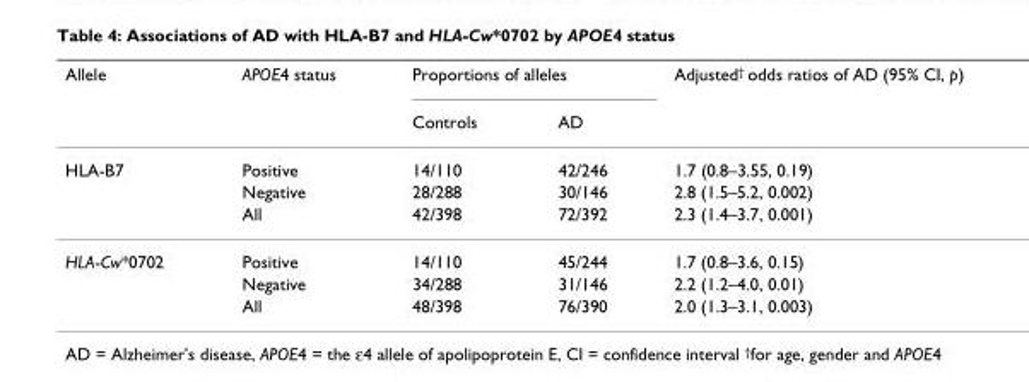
<table><thead><tr><td rowspan="2">Allele</td><td rowspan="2">APOE4 status</td><td colspan="2">Proportions of alleles</td><td rowspan="2">Adjusted<sup>†</sup> odds ratios of AD (95% CI, p)</td></tr><tr><td>Controls</td><td>AD</td></tr></thead><tbody><tr><td rowspan="3">HLA-B7</td><td>Positive</td><td>14/110</td><td>42/246</td><td>1.7 (0.8–3.55, 0.19)</td></tr><tr><td>Negative</td><td>28/288</td><td>30/146</td><td>2.8 (1.5–5.2, 0.002)</td></tr><tr><td>All</td><td>42/398</td><td>72/392</td><td>2.3 (1.4–3.7, 0.001)</td></tr><tr><td rowspan="3">HLA-Cw*0702</td><td>Positive</td><td>14/110</td><td>45/244</td><td>1.7 (0.8–3.6, 0.15)</td></tr><tr><td>Negative</td><td>34/288</td><td>31/146</td><td>2.2 (1.2–4.0, 0.01)</td></tr><tr><td>All</td><td>48/398</td><td>76/390</td><td>2.0 (1.3–3.1, 0.003)</td></tr></tbody></table>